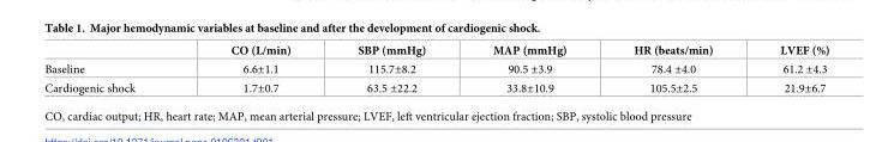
<table><thead><tr><td></td><td>CO (L/min)</td><td>SBP (mmHg)</td><td>MAP (mmHg)</td><td>HR (beats/min)</td><td>LVEF (%)</td></tr></thead><tbody><tr><td>Baseline</td><td>6.6±1.1</td><td>115.7±8.2</td><td>90.5 ±3.9</td><td>78.4 ±4.0</td><td>61.2 ±4.3</td></tr><tr><td>Cardiogenic shock</td><td>1.7±0.7</td><td>63.5 ±22.2</td><td>33.8±10.9</td><td>105.5±2.5</td><td>21.9±6.7</td></tr></tbody></table>